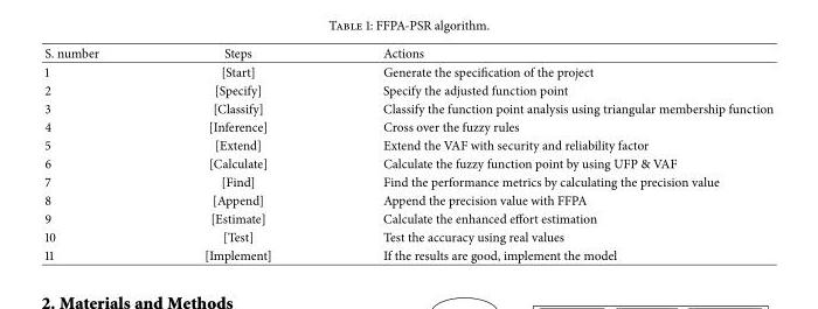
<table><thead><tr><td>S. number</td><td>Steps</td><td>Actions</td></tr></thead><tbody><tr><td>1</td><td>[Start]</td><td>Generate the specification of the project</td></tr><tr><td>2</td><td>[Specify]</td><td>Specify the adjusted function point</td></tr><tr><td>3</td><td>[Classify]</td><td>Classify the function point analysis using triangular membership function</td></tr><tr><td>4</td><td>[Inference]</td><td>Cross over the fuzzy rules</td></tr><tr><td>5</td><td>[Extend]</td><td>Extend the VAF with security and reliability factor</td></tr><tr><td>6</td><td>[Calculate]</td><td>Calculate the fuzzy function point by using UFP &amp; VAF</td></tr><tr><td>7</td><td>[Find]</td><td>Find the performance metrics by calculating the precision value</td></tr><tr><td>8</td><td>[Append]</td><td>Append the precision value with FFPA</td></tr><tr><td>9</td><td>[Estimate]</td><td>Calculate the enhanced effort estimation</td></tr><tr><td>10</td><td>[Test]</td><td>Test the accuracy using real values</td></tr><tr><td>11</td><td>[Implement]</td><td>If the results are good, implement the model</td></tr></tbody></table>